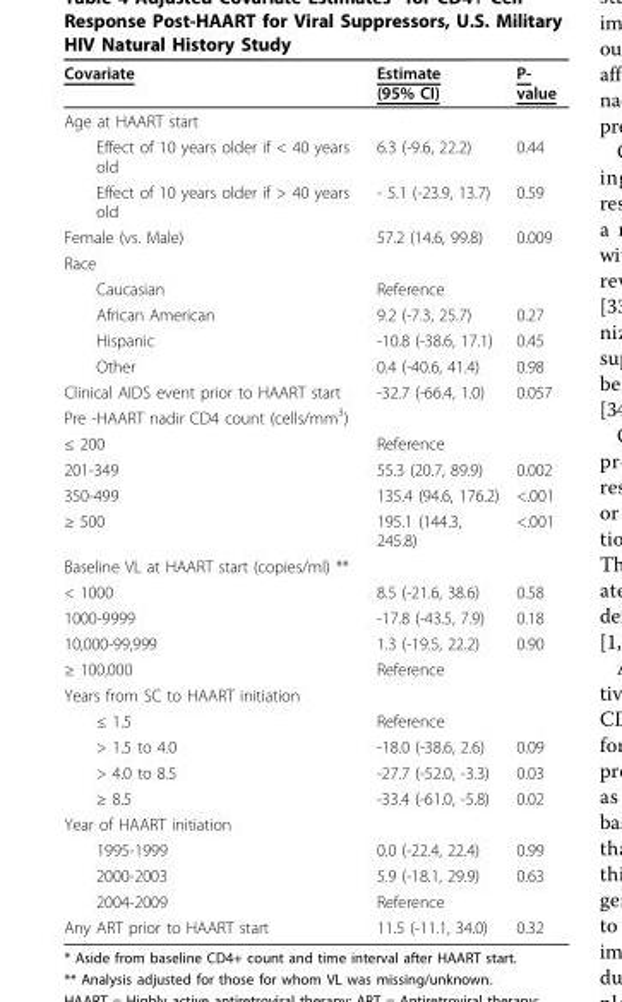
<table><thead><tr><td>Covariate</td><td>Estimate (95% CI)</td><td>P- value</td></tr></thead><tbody><tr><td colspan="3">Age at HAART start</td></tr><tr><td>Effect of 10 years older if &lt; 40 years old</td><td>6.3 (-9.6, 22.2)</td><td>0.44</td></tr><tr><td>Effect of 10 years older if &gt; 40 years old</td><td>- 5.1 (-23.9, 13.7)</td><td>0.59</td></tr><tr><td>Female (vs. Male)</td><td>57.2 (14.6, 99.8)</td><td>0.009</td></tr><tr><td colspan="3">Race</td></tr><tr><td>Caucasian</td><td>Reference</td><td></td></tr><tr><td>African American</td><td>9.2 (-7.3, 25.7)</td><td>0.27</td></tr><tr><td>Hispanic</td><td>-10.8 (-38.6, 17.1)</td><td>0.45</td></tr><tr><td>Other</td><td>0.4 (-40.6, 41.4)</td><td>0.98</td></tr><tr><td>Clinical AIDS event prior to HAART start</td><td>-32.7 (-66.4, 1.0)</td><td>0.057</td></tr><tr><td colspan="3">Pre -HAART nadir CD4 count (cells/mm<sup>3</sup>)</td></tr><tr><td>≤ 200</td><td>Reference</td><td></td></tr><tr><td>201-349</td><td>55.3 (20.7, 89.9)</td><td>0.002</td></tr><tr><td>350-499</td><td>135.4 (94.6, 176.2)</td><td>&lt;.001</td></tr><tr><td>≥ 500</td><td>195.1 (144.3, 245.8)</td><td>&lt;.001</td></tr><tr><td colspan="3">Baseline VL at HAART start (copies/ml) **</td></tr><tr><td>&lt; 1000</td><td>8.5 (-21.6, 38.6)</td><td>0.58</td></tr><tr><td>1000-9999</td><td>-17.8 (-43.5, 7.9)</td><td>0.18</td></tr><tr><td>10,000-99,999</td><td>1.3 (-19.5, 22.2)</td><td>0.90</td></tr><tr><td>≥ 100,000</td><td>Reference</td><td></td></tr><tr><td colspan="3">Years from SC to HAART initiation</td></tr><tr><td>≤ 1.5</td><td>Reference</td><td></td></tr><tr><td>&gt; 1.5 to 4.0</td><td>-18.0 (-38.6, 2.6)</td><td>0.09</td></tr><tr><td>&gt; 4.0 to 8.5</td><td>-27.7 (-52.0, -3.3)</td><td>0.03</td></tr><tr><td>≥ 8.5</td><td>-33.4 (-61.0, -5.8)</td><td>0.02</td></tr><tr><td colspan="3">Year of HAART initiation</td></tr><tr><td>1995-1999</td><td>0.0 (-22.4, 22.4)</td><td>0.99</td></tr><tr><td>2000-2003</td><td>5.9 (-18.1, 29.9)</td><td>0.63</td></tr><tr><td>2004-2009</td><td>Reference</td><td></td></tr><tr><td>Any ART prior to HAART start</td><td>11.5 (-11.1, 34.0)</td><td>0.32</td></tr></tbody></table>